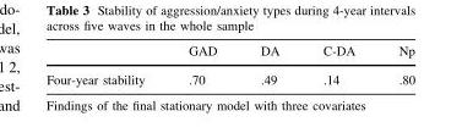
<table><thead><tr><td></td><td>GAD</td><td>DA</td><td>C-DA</td><td>Np</td></tr></thead><tbody><tr><td>Four-year stability</td><td>.70</td><td>.49</td><td>.14</td><td>.80</td></tr></tbody></table>